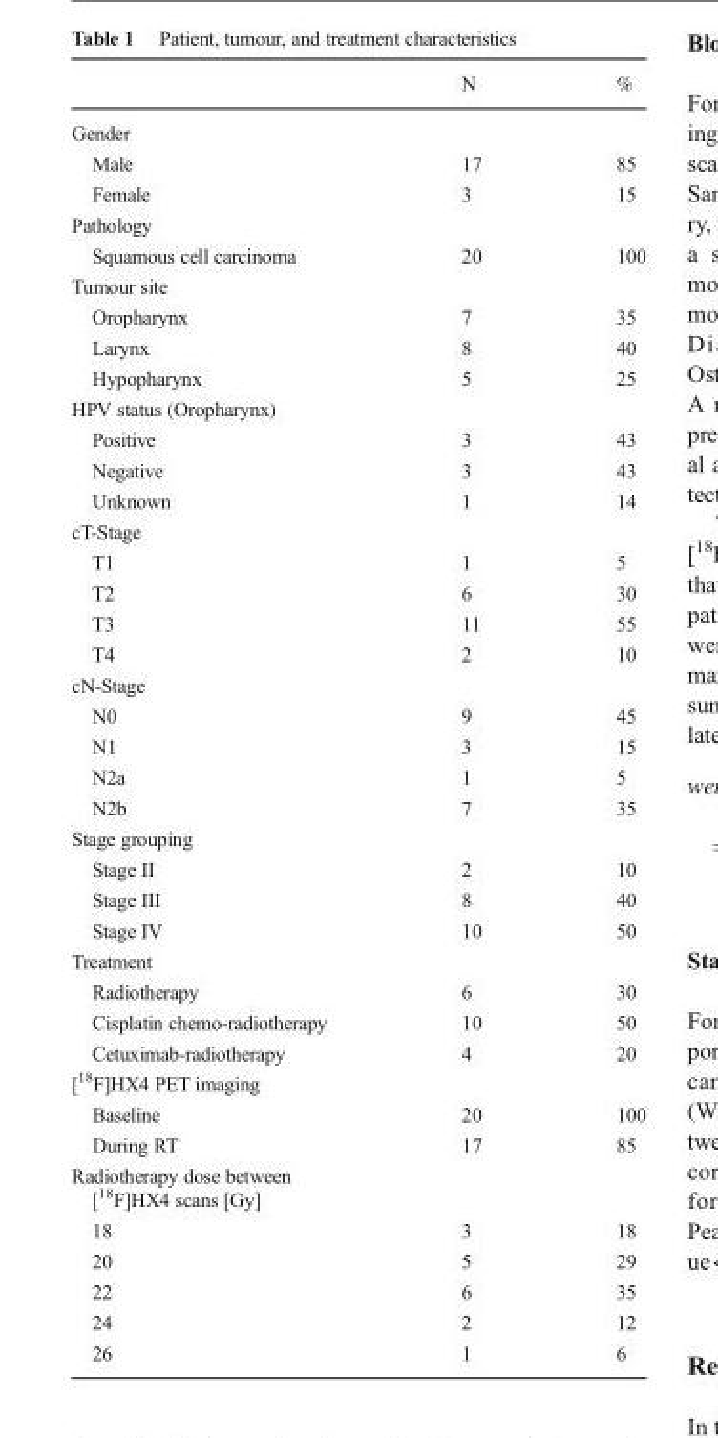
<table><thead><tr><td></td><td>N</td><td>%</td></tr></thead><tbody><tr><td colspan="3">Gender</td></tr><tr><td>Male</td><td>17</td><td>85</td></tr><tr><td>Female</td><td>3</td><td>15</td></tr><tr><td colspan="3">Pathology</td></tr><tr><td>Squamous cell carcinoma</td><td>20</td><td>100</td></tr><tr><td colspan="3">Tumour site</td></tr><tr><td>Oropharynx</td><td>7</td><td>35</td></tr><tr><td>Larynx</td><td>8</td><td>40</td></tr><tr><td>Hypopharynx</td><td>5</td><td>25</td></tr><tr><td colspan="3">HPV status (Oropharynx)</td></tr><tr><td>Positive</td><td>3</td><td>43</td></tr><tr><td>Negative</td><td>3</td><td>43</td></tr><tr><td>Unknown</td><td>1</td><td>14</td></tr><tr><td colspan="3">cT-Stage</td></tr><tr><td>T1</td><td>1</td><td>5</td></tr><tr><td>T2</td><td>6</td><td>30</td></tr><tr><td>T3</td><td>11</td><td>55</td></tr><tr><td>T4</td><td>2</td><td>10</td></tr><tr><td colspan="3">cN-Stage</td></tr><tr><td>N0</td><td>9</td><td>45</td></tr><tr><td>N1</td><td>3</td><td>15</td></tr><tr><td>N2a</td><td>1</td><td>5</td></tr><tr><td>N2b</td><td>7</td><td>35</td></tr><tr><td colspan="3">Stage grouping</td></tr><tr><td>Stage II</td><td>2</td><td>10</td></tr><tr><td>Stage III</td><td>8</td><td>40</td></tr><tr><td>Stage IV</td><td>10</td><td>50</td></tr><tr><td colspan="3">Treatment</td></tr><tr><td>Radiotherapy</td><td>6</td><td>30</td></tr><tr><td>Cisplatin chemo-radiotherapy</td><td>10</td><td>50</td></tr><tr><td>Cetuximab-radiotherapy</td><td>4</td><td>20</td></tr><tr><td colspan="3">[<sup>18</sup>F]HX4 PET imaging</td></tr><tr><td>Baseline</td><td>20</td><td>100</td></tr><tr><td>During RT</td><td>17</td><td>85</td></tr><tr><td colspan="3">Radiotherapy dose between [<sup>18</sup>F]HX4 scans [Gy]</td></tr><tr><td>18</td><td>3</td><td>18</td></tr><tr><td>20</td><td>5</td><td>29</td></tr><tr><td>22</td><td>6</td><td>35</td></tr><tr><td>24</td><td>2</td><td>12</td></tr><tr><td>26</td><td>1</td><td>6</td></tr></tbody></table>